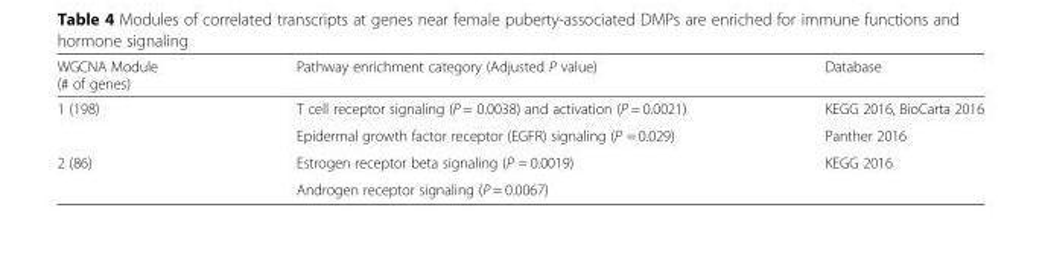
<table><thead><tr><td>WGCNA Module (# of genes)</td><td>Pathway enrichment category (Adjusted P value)</td><td>Database</td></tr></thead><tbody><tr><td rowspan="2">1 (198)</td><td>T cell receptor signaling (P = 0.0038) and activation (P = 0.0021)</td><td>KEGG 2016, BioCarta 2016</td></tr><tr><td>Epidermal growth factor receptor (EGFR) signaling (P = 0.029)</td><td>Panther 2016</td></tr><tr><td rowspan="2">2 (86)</td><td>Estrogen receptor beta signaling (P = 0.0019)</td><td rowspan="2">KEGG 2016</td></tr><tr><td>Androgen receptor signaling (P = 0.0067)</td></tr></tbody></table>